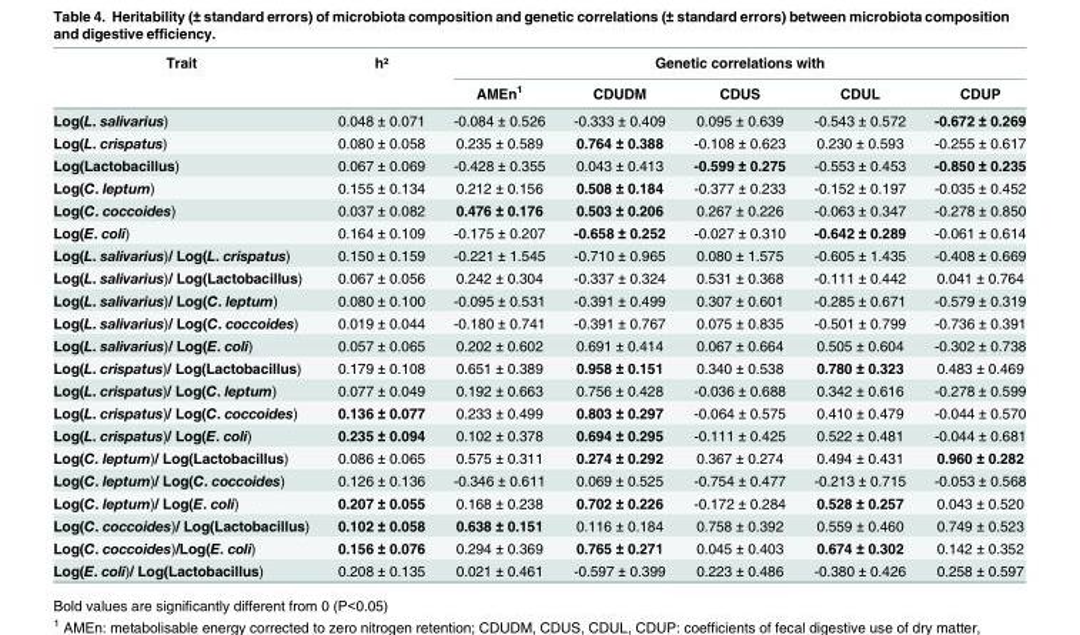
<table><thead><tr><td rowspan="2">Trait</td><td rowspan="2">h²</td><td colspan="5">Genetic correlations with</td></tr><tr><td>AMEn<sup>1</sup></td><td>CDUDM</td><td>CDUS</td><td>CDUL</td><td>CDUP</td></tr></thead><tbody><tr><td>Log(L. salivarius)</td><td>0.048 ± 0.071</td><td>-0.084 ± 0.526</td><td>-0.333 ± 0.409</td><td>0.095 ± 0.639</td><td>-0.543 ± 0.572</td><td>-0.672 ± 0.269</td></tr><tr><td>Log(L. crispatus)</td><td>0.080 ± 0.058</td><td>0.235 ± 0.589</td><td>0.764 ± 0.388</td><td>-0.108 ± 0.623</td><td>0.230 ± 0.593</td><td>-0.255 ± 0.617</td></tr><tr><td>Log(Lactobacillus)</td><td>0.067 ± 0.069</td><td>-0.428 ± 0.355</td><td>0.043 ± 0.413</td><td>-0.599 ± 0.275</td><td>-0.553 ± 0.453</td><td>-0.850 ± 0.235</td></tr><tr><td>Log(C. leptum)</td><td>0.155 ± 0.134</td><td>0.212 ± 0.156</td><td>0.508 ± 0.184</td><td>-0.377 ± 0.233</td><td>-0.152 ± 0.197</td><td>-0.035 ± 0.452</td></tr><tr><td>Log(C. coccoides)</td><td>0.037 ± 0.082</td><td>0.476 ± 0.176</td><td>0.503 ± 0.206</td><td>0.267 ± 0.226</td><td>-0.063 ± 0.347</td><td>-0.278 ± 0.850</td></tr><tr><td>Log(E. coli)</td><td>0.164 ± 0.109</td><td>-0.175 ± 0.207</td><td>-0.658 ± 0.252</td><td>-0.027 ± 0.310</td><td>-0.642 ± 0.289</td><td>-0.061 ± 0.614</td></tr><tr><td>Log(L. salivarius)/ Log(L. crispatus)</td><td>0.150 ± 0.159</td><td>-0.221 ± 1.545</td><td>-0.710 ± 0.965</td><td>0.080 ± 1.575</td><td>-0.605 ± 1.435</td><td>-0.408 ± 0.669</td></tr><tr><td>Log(L. salivarius)/ Log(Lactobacillus)</td><td>0.067 ± 0.056</td><td>0.242 ± 0.304</td><td>-0.337 ± 0.324</td><td>0.531 ± 0.368</td><td>-0.111 ± 0.442</td><td>0.041 ± 0.764</td></tr><tr><td>Log(L. salivarius)/ Log(C. leptum)</td><td>0.080 ± 0.100</td><td>-0.095 ± 0.531</td><td>-0.391 ± 0.499</td><td>0.307 ± 0.601</td><td>-0.285 ± 0.671</td><td>-0.579 ± 0.319</td></tr><tr><td>Log(L. salivarius)/ Log(C. coccoides)</td><td>0.019 ± 0.044</td><td>-0.180 ± 0.741</td><td>-0.391 ± 0.767</td><td>0.075 ± 0.835</td><td>-0.501 ± 0.799</td><td>-0.736 ± 0.391</td></tr><tr><td>Log(L. salivarius)/ Log(E. coli)</td><td>0.057 ± 0.065</td><td>0.202 ± 0.602</td><td>0.691 ± 0.414</td><td>0.067 ± 0.664</td><td>0.505 ± 0.604</td><td>-0.302 ± 0.738</td></tr><tr><td>Log(L. crispatus)/ Log(Lactobacillus)</td><td>0.179 ± 0.108</td><td>0.651 ± 0.389</td><td>0.958 ± 0.151</td><td>0.340 ± 0.538</td><td>0.780 ± 0.323</td><td>0.483 ± 0.469</td></tr><tr><td>Log(L. crispatus)/ Log(C. leptum)</td><td>0.077 ± 0.049</td><td>0.192 ± 0.663</td><td>0.756 ± 0.428</td><td>-0.036 ± 0.688</td><td>0.342 ± 0.616</td><td>-0.278 ± 0.599</td></tr><tr><td>Log(L. crispatus)/ Log(C. coccoides)</td><td>0.136 ± 0.077</td><td>0.233 ± 0.499</td><td>0.803 ± 0.297</td><td>-0.064 ± 0.575</td><td>0.410 ± 0.479</td><td>-0.044 ± 0.570</td></tr><tr><td>Log(L. crispatus)/ Log(E. coli)</td><td>0.235 ± 0.094</td><td>0.102 ± 0.378</td><td>0.694 ± 0.295</td><td>-0.111 ± 0.425</td><td>0.522 ± 0.481</td><td>-0.044 ± 0.681</td></tr><tr><td>Log(C. leptum)/ Log(Lactobacillus)</td><td>0.086 ± 0.065</td><td>0.575 ± 0.311</td><td>0.274 ± 0.292</td><td>0.367 ± 0.274</td><td>0.494 ± 0.431</td><td>0.960 ± 0.282</td></tr><tr><td>Log(C. leptum)/ Log(C. coccoides)</td><td>0.126 ± 0.136</td><td>-0.346 ± 0.611</td><td>0.069 ± 0.525</td><td>-0.754 ± 0.477</td><td>-0.213 ± 0.715</td><td>-0.053 ± 0.568</td></tr><tr><td>Log(C. leptum)/ Log(E. coli)</td><td>0.207 ± 0.055</td><td>0.168 ± 0.238</td><td>0.702 ± 0.226</td><td>-0.172 ± 0.284</td><td>0.528 ± 0.257</td><td>0.043 ± 0.520</td></tr><tr><td>Log(C. coccoides)/ Log(Lactobacillus)</td><td>0.102 ± 0.058</td><td>0.638 ± 0.151</td><td>0.116 ± 0.184</td><td>0.758 ± 0.392</td><td>0.559 ± 0.460</td><td>0.749 ± 0.523</td></tr><tr><td>Log(C. coccoides)/Log(E. coli)</td><td>0.156 ± 0.076</td><td>0.294 ± 0.369</td><td>0.765 ± 0.271</td><td>0.045 ± 0.403</td><td>0.674 ± 0.302</td><td>0.142 ± 0.352</td></tr><tr><td>Log(E. coli)/ Log(Lactobacillus)</td><td>0.208 ± 0.135</td><td>0.021 ± 0.461</td><td>-0.597 ± 0.399</td><td>0.223 ± 0.486</td><td>-0.380 ± 0.426</td><td>0.258 ± 0.597</td></tr></tbody></table>